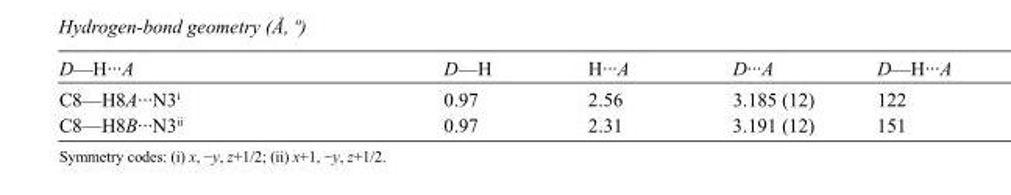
<table><tbody><tr><td>D—H···A</td><td>D—H</td><td>H···A</td><td>D···A</td><td>D—H···A</td></tr><tr><td>C8—H8A···N3<sup>i</sup></td><td>0.97</td><td>2.56</td><td>3.185 (12)</td><td>122</td></tr><tr><td>C8—H8B···N3<sup>ii</sup></td><td>0.97</td><td>2.31</td><td>3.191 (12)</td><td>151</td></tr></tbody></table>